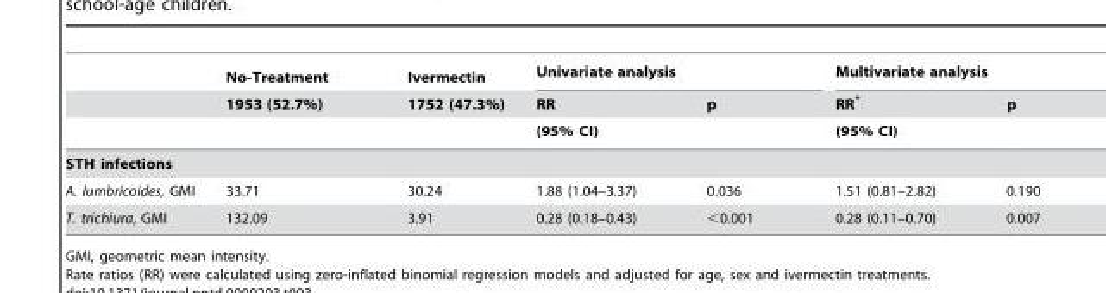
<table><thead><tr><td rowspan="3"></td><td rowspan="3">No-Treatment 1953 (52.7%)</td><td rowspan="3">Ivermectin 1752 (47.3%)</td><td colspan="2">Univariate analysis</td><td colspan="2">Multivariate analysis</td></tr><tr><td rowspan="2">RR (95% CI)</td><td rowspan="2">p</td><td rowspan="2">RR* (95% CI)</td><td rowspan="2">p</td></tr><tr></tr></thead><tbody><tr><td colspan="7">STH infections</td></tr><tr><td>A. lumbricoides, GMI</td><td>33.71</td><td>30.24</td><td>1.88 (1.04–3.37)</td><td>0.036</td><td>1.51 (0.81–2.82)</td><td>0.190</td></tr><tr><td>T. trichiura, GMI</td><td>132.09</td><td>3.91</td><td>0.28 (0.18–0.43)</td><td>&lt;0.001</td><td>0.28 (0.11–0.70)</td><td>0.007</td></tr></tbody></table>